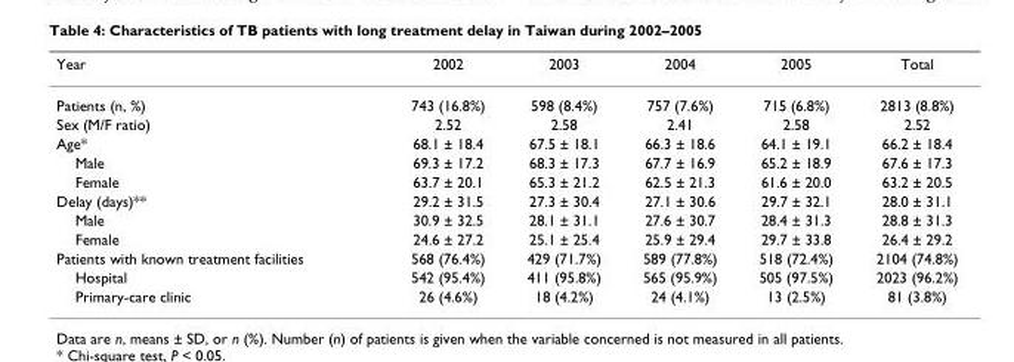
<table><thead><tr><td>Year</td><td>2002</td><td>2003</td><td>2004</td><td>2005</td><td>Total</td></tr></thead><tbody><tr><td>Patients (n, %)</td><td>743 (16.8%)</td><td>598 (8.4%)</td><td>757 (7.6%)</td><td>715 (6.8%)</td><td>2813 (8.8%)</td></tr><tr><td>Sex (M/F ratio)</td><td>2.52</td><td>2.58</td><td>2.41</td><td>2.58</td><td>2.52</td></tr><tr><td>Age*</td><td>68.1 ± 18.4</td><td>67.5 ± 18.1</td><td>66.3 ± 18.6</td><td>64.1 ± 19.1</td><td>66.2 ± 18.4</td></tr><tr><td>Male</td><td>69.3 ± 17.2</td><td>68.3 ± 17.3</td><td>67.7 ± 16.9</td><td>65.2 ± 18.9</td><td>67.6 ± 17.3</td></tr><tr><td>Female</td><td>63.7 ± 20.1</td><td>65.3 ± 21.2</td><td>62.5 ± 21.3</td><td>61.6 ± 20.0</td><td>63.2 ± 20.5</td></tr><tr><td>Delay (days)**</td><td>29.2 ± 31.5</td><td>27.3 ± 30.4</td><td>27.1 ± 30.6</td><td>29.7 ± 32.1</td><td>28.0 ± 31.1</td></tr><tr><td>Male</td><td>30.9 ± 32.5</td><td>28.1 ± 31.1</td><td>27.6 ± 30.7</td><td>28.4 ± 31.3</td><td>28.8 ± 31.3</td></tr><tr><td>Female</td><td>24.6 ± 27.2</td><td>25.1 ± 25.4</td><td>25.9 ± 29.4</td><td>29.7 ± 33.8</td><td>26.4 ± 29.2</td></tr><tr><td>Patients with known treatment facilities</td><td>568 (76.4%)</td><td>429 (71.7%)</td><td>589 (77.8%)</td><td>518 (72.4%)</td><td>2104 (74.8%)</td></tr><tr><td>Hospital</td><td>542 (95.4%)</td><td>411 (95.8%)</td><td>565 (95.9%)</td><td>505 (97.5%)</td><td>2023 (96.2%)</td></tr><tr><td>Primary-care clinic</td><td>26 (4.6%)</td><td>18 (4.2%)</td><td>24 (4.1%)</td><td>13 (2.5%)</td><td>81 (3.8%)</td></tr></tbody></table>